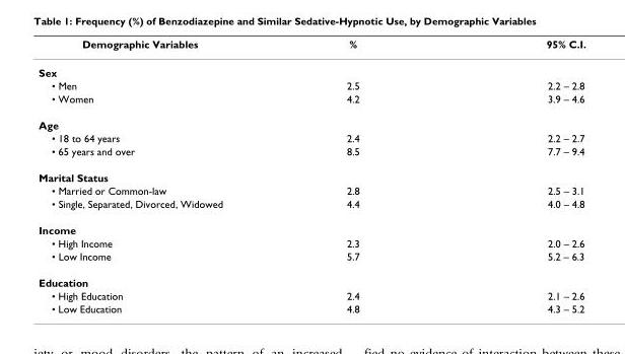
<table><thead><tr><td>Demographic Variables</td><td>%</td><td>95% C.I.</td></tr></thead><tbody><tr><td colspan="3">Sex</td></tr><tr><td>• Men</td><td>2.5</td><td>2.2 – 2.8</td></tr><tr><td>• Women</td><td>4.2</td><td>3.9 – 4.6</td></tr><tr><td colspan="3">Age</td></tr><tr><td>• 18 to 64 years</td><td>2.4</td><td>2.2 – 2.7</td></tr><tr><td>• 65 years and over</td><td>8.5</td><td>7.7 – 9.4</td></tr><tr><td colspan="3">Marital Status</td></tr><tr><td>• Married or Common-law</td><td>2.8</td><td>2.5 – 3.1</td></tr><tr><td>• Single, Separated, Divorced, Widowed</td><td>4.4</td><td>4.0 – 4.8</td></tr><tr><td colspan="3">Income</td></tr><tr><td>• High Income</td><td>2.3</td><td>2.0 – 2.6</td></tr><tr><td>• Low Income</td><td>5.7</td><td>5.2 – 6.3</td></tr><tr><td colspan="3">Education</td></tr><tr><td>• High Education</td><td>2.4</td><td>2.1 – 2.6</td></tr><tr><td>• Low Education</td><td>4.8</td><td>4.3 – 5.2</td></tr></tbody></table>